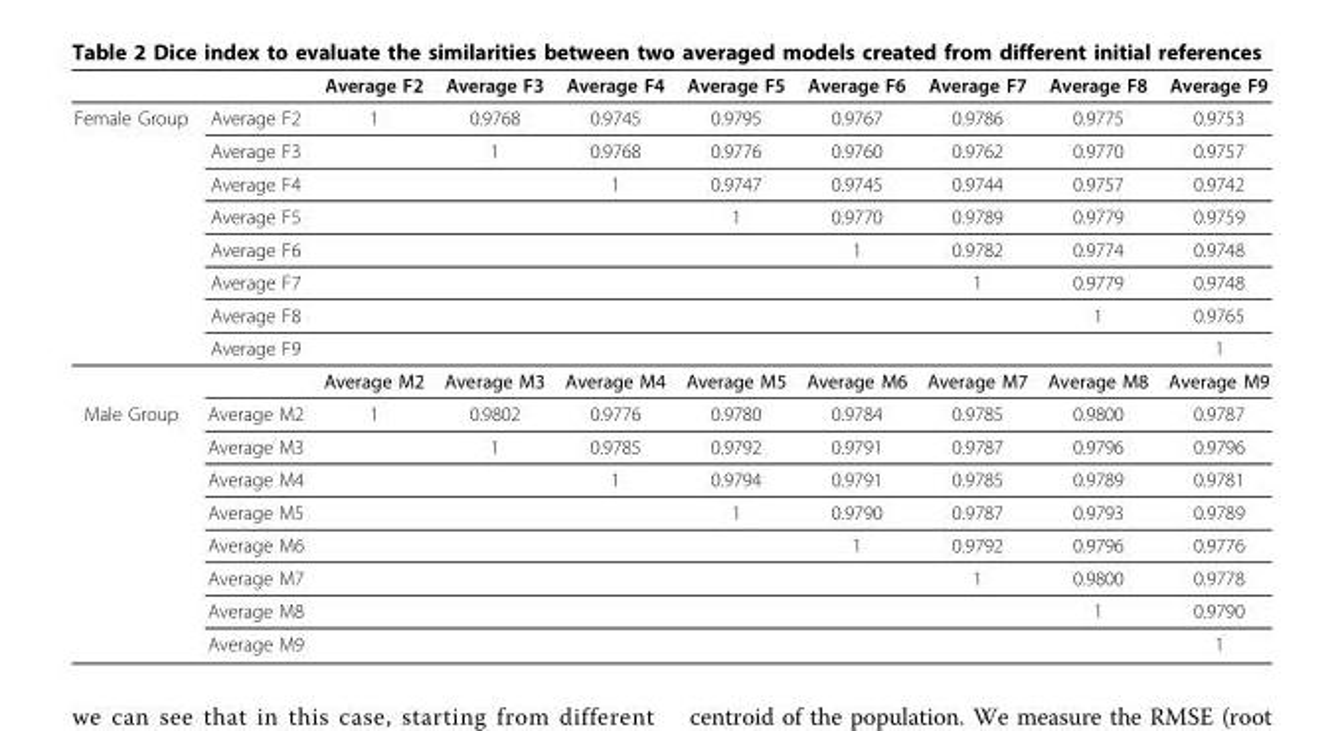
<table><thead><tr><td></td><td></td><td>Average F2</td><td>Average F3</td><td>Average F4</td><td>Average F5</td><td>Average F6</td><td>Average F7</td><td>Average F8</td><td>Average F9</td></tr></thead><tbody><tr><td rowspan="9">Female Group</td><td>Average F2</td><td>1</td><td>0.9768</td><td>0.9745</td><td>0.9795</td><td>0.9767</td><td>0.9786</td><td>0.9775</td><td>0.9753</td></tr><tr><td>Average F3</td><td></td><td>1</td><td>0.9768</td><td>0.9776</td><td>0.9760</td><td>0.9762</td><td>0.9770</td><td>0.9757</td></tr><tr><td>Average F4</td><td></td><td></td><td>1</td><td>0.9747</td><td>0.9745</td><td>0.9744</td><td>0.9757</td><td>0.9742</td></tr><tr><td>Average F5</td><td></td><td></td><td></td><td>1</td><td>0.9770</td><td>0.9789</td><td>0.9779</td><td>0.9759</td></tr><tr><td>Average F6</td><td></td><td></td><td></td><td></td><td>1</td><td>0.9782</td><td>0.9774</td><td>0.9748</td></tr><tr><td>Average F7</td><td></td><td></td><td></td><td></td><td></td><td>1</td><td>0.9779</td><td>0.9748</td></tr><tr><td>Average F8</td><td></td><td></td><td></td><td></td><td></td><td></td><td>1</td><td>0.9765</td></tr><tr><td>Average F9</td><td></td><td></td><td></td><td></td><td></td><td></td><td></td><td>1</td></tr><tr><td></td><td>Average M2</td><td>Average M3</td><td>Average M4</td><td>Average M5</td><td>Average M6</td><td>Average M7</td><td>Average M8</td><td>Average M9</td></tr><tr><td rowspan="8">Male Group</td><td>Average M2</td><td>1</td><td>0.9802</td><td>0.9776</td><td>0.9780</td><td>0.9784</td><td>0.9785</td><td>0.9800</td><td>0.9787</td></tr><tr><td>Average M3</td><td></td><td>1</td><td>0.9785</td><td>0.9792</td><td>0.9791</td><td>0.9787</td><td>0.9796</td><td>0.9796</td></tr><tr><td>Average M4</td><td></td><td></td><td>1</td><td>0.9794</td><td>0.9791</td><td>0.9785</td><td>0.9789</td><td>0.9781</td></tr><tr><td>Average M5</td><td></td><td></td><td></td><td>1</td><td>0.9790</td><td>0.9787</td><td>0.9793</td><td>0.9789</td></tr><tr><td>Average M6</td><td></td><td></td><td></td><td></td><td>1</td><td>0.9792</td><td>0.9796</td><td>0.9776</td></tr><tr><td>Average M7</td><td></td><td></td><td></td><td></td><td></td><td>1</td><td>0.9800</td><td>0.9778</td></tr><tr><td>Average M8</td><td></td><td></td><td></td><td></td><td></td><td></td><td>1</td><td>0.9790</td></tr><tr><td>Average M9</td><td></td><td></td><td></td><td></td><td></td><td></td><td></td><td>1</td></tr></tbody></table>